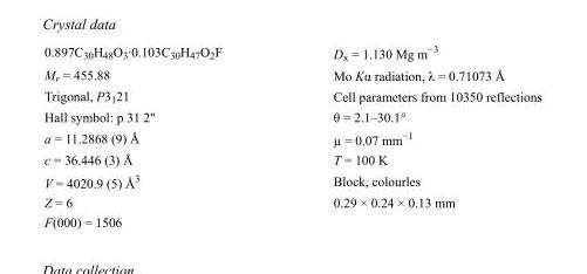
<table><tbody><tr><td>0.897C<sub>30</sub>H<sub>48</sub>O<sub>3</sub>·0.103C<sub>30</sub>H<sub>47</sub>O<sub>2</sub>F</td><td>D<sub>x</sub> = 1.130 Mg m<sup>−3</sup></td></tr><tr><td>M<sub>r</sub> = 455.88</td><td>Mo Kα radiation, λ = 0.71073 Å</td></tr><tr><td>Trigonal, P3<sub>1</sub>21</td><td>Cell parameters from 10350 reflections</td></tr><tr><td>Hall symbol: p 31 2&quot;</td><td>θ = 2.1–30.1°</td></tr><tr><td>a = 11.2868 (9) Å</td><td>µ = 0.07 mm<sup>−1</sup></td></tr><tr><td>c = 36.446 (3) Å</td><td>T = 100 K</td></tr><tr><td>V = 4020.9 (5) Å<sup>3</sup></td><td>Block, colourles</td></tr><tr><td>Z = 6</td><td>0.29 × 0.24 × 0.13 mm</td></tr><tr><td>F(000) = 1506</td><td></td></tr></tbody></table>